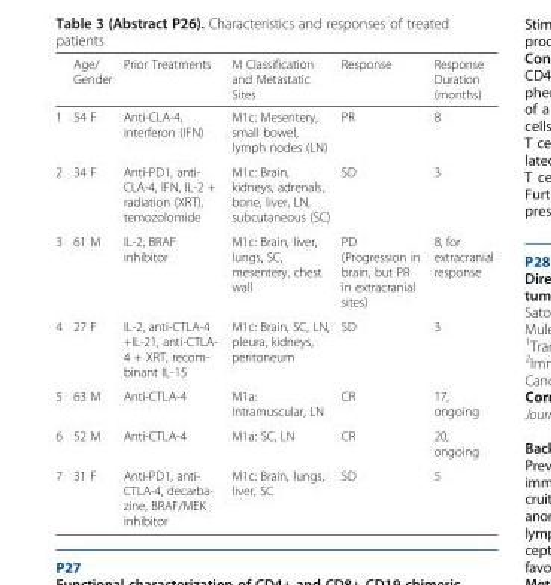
<table><thead><tr><td></td><td>Age/ Gender</td><td>Prior Treatments</td><td>M Classification and Metastatic Sites</td><td>Response</td><td>Response Duration (months)</td></tr></thead><tbody><tr><td>1</td><td>54 F</td><td>Anti-CLA-4, interferon (IFN)</td><td>M1c: Mesentery, small bowel, lymph nodes (LN)</td><td>PR</td><td>8</td></tr><tr><td>2</td><td>34 F</td><td>Anti-PD1, anti- CLA-4, IFN, IL-2 + radiation (XRT), temozolomide</td><td>M1c: Brain, kidneys, adrenals, bone, liver, LN, subcutaneous (SC)</td><td>SD</td><td>3</td></tr><tr><td>3</td><td>61 M</td><td>IL-2, BRAF inhibitor</td><td>M1c: Brain, liver, lungs, SC, mesentery, chest wall</td><td>PD (Progression in brain, but PR in extracranial sites)</td><td>8, for extracranial response</td></tr><tr><td>4</td><td>27 F</td><td>IL-2, anti-CTLA-4 +IL-21, anti-CTLA- 4 + XRT, recom- binant IL-15</td><td>M1c: Brain, SC, LN, pleura, kidneys, peritoneum</td><td>SD</td><td>3</td></tr><tr><td>5</td><td>63 M</td><td>Anti-CTLA-4</td><td>M1a: Intramuscular, LN</td><td>CR</td><td>17, ongoing</td></tr><tr><td>6</td><td>52 M</td><td>Anti-CTLA-4</td><td>M1a: SC, LN</td><td>CR</td><td>20, ongoing</td></tr><tr><td>7</td><td>31 F</td><td>Anti-PD1, anti- CTLA-4, decarba- zine, BRAF/MEK inhibitor</td><td>M1c: Brain, lungs, liver, SC</td><td>SD</td><td>5</td></tr></tbody></table>